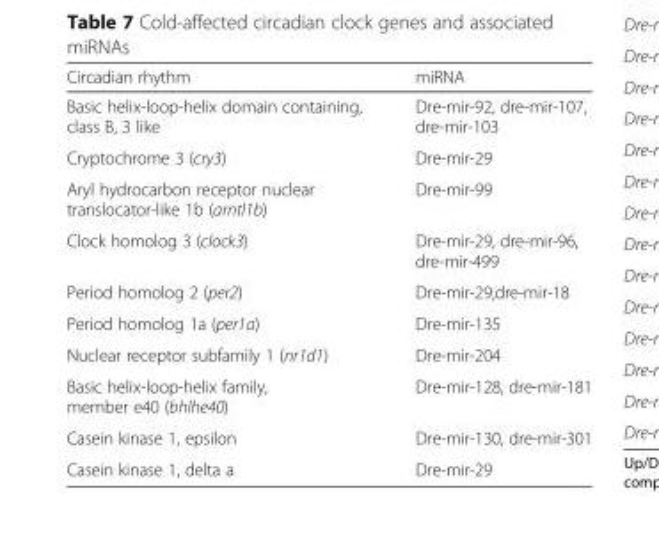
<table><thead><tr><td>Circadian rhythm</td><td>miRNA</td></tr></thead><tbody><tr><td>Basic helix-loop-helix domain containing, class B, 3 like</td><td>Dre-mir-92, dre-mir-107, dre-mir-103</td></tr><tr><td>Cryptochrome 3 (cry3)</td><td>Dre-mir-29</td></tr><tr><td>Aryl hydrocarbon receptor nuclear translocator-like 1b (arntl1b)</td><td>Dre-mir-99</td></tr><tr><td>Clock homolog 3 (clock3)</td><td>Dre-mir-29, dre-mir-96, dre-mir-499</td></tr><tr><td>Period homolog 2 (per2)</td><td>Dre-mir-29,dre-mir-18</td></tr><tr><td>Period homolog 1a (per1a)</td><td>Dre-mir-135</td></tr><tr><td>Nuclear receptor subfamily 1 (nr1d1)</td><td>Dre-mir-204</td></tr><tr><td>Basic helix-loop-helix family, member e40 (bhlhe40)</td><td>Dre-mir-128, dre-mir-181</td></tr><tr><td>Casein kinase 1, epsilon</td><td>Dre-mir-130, dre-mir-301</td></tr><tr><td>Casein kinase 1, delta a</td><td>Dre-mir-29</td></tr></tbody></table>